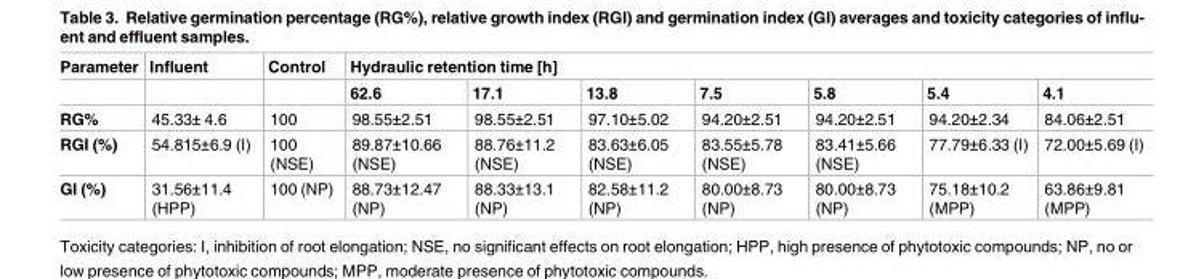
<table><thead><tr><td rowspan="2">Parameter</td><td rowspan="2">Influent</td><td rowspan="2">Control</td><td colspan="7">Hydraulic retention time [h]</td></tr><tr><td>62.6</td><td>17.1</td><td>13.8</td><td>7.5</td><td>5.8</td><td>5.4</td><td>4.1</td></tr></thead><tbody><tr><td>RG%</td><td>45.33± 4.6</td><td>100</td><td>98.55±2.51</td><td>98.55±2.51</td><td>97.10±5.02</td><td>94.20±2.51</td><td>94.20±2.51</td><td>94.20±2.34</td><td>84.06±2.51</td></tr><tr><td>RGI (%)</td><td>54.815±6.9 (I)</td><td>100 (NSE)</td><td>89.87±10.66 (NSE)</td><td>88.76±11.2 (NSE)</td><td>83.63±6.05 (NSE)</td><td>83.55±5.78 (NSE)</td><td>83.41±5.66 (NSE)</td><td>77.79±6.33 (I)</td><td>72.00±5.69 (I)</td></tr><tr><td>GI (%)</td><td>31.56±11.4 (HPP)</td><td>100 (NP)</td><td>88.73±12.47 (NP)</td><td>88.33±13.1 (NP)</td><td>82.58±11.2 (NP)</td><td>80.00±8.73 (NP)</td><td>80.00±8.73 (NP)</td><td>75.18±10.2 (MPP)</td><td>63.86±9.81 (MPP)</td></tr></tbody></table>